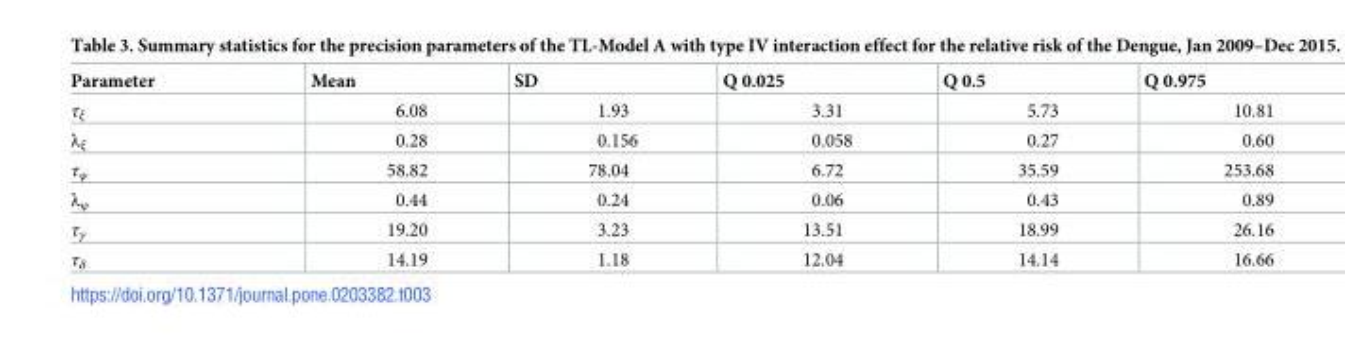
<table><thead><tr><td>Parameter</td><td>Mean</td><td>SD</td><td>Q 0.025</td><td>Q 0.5</td><td>Q 0.975</td></tr></thead><tbody><tr><td>τ<sub>ξ</sub></td><td>6.08</td><td>1.93</td><td>3.31</td><td>5.73</td><td>10.81</td></tr><tr><td>λ<sub>ξ</sub></td><td>0.28</td><td>0.156</td><td>0.058</td><td>0.27</td><td>0.60</td></tr><tr><td>τ<sub>ψ</sub></td><td>58.82</td><td>78.04</td><td>6.72</td><td>35.59</td><td>253.68</td></tr><tr><td>λ<sub>ψ</sub></td><td>0.44</td><td>0.24</td><td>0.06</td><td>0.43</td><td>0.89</td></tr><tr><td>τ<sub>γ</sub></td><td>19.20</td><td>3.23</td><td>13.51</td><td>18.99</td><td>26.16</td></tr><tr><td>τ<sub>δ</sub></td><td>14.19</td><td>1.18</td><td>12.04</td><td>14.14</td><td>16.66</td></tr></tbody></table>